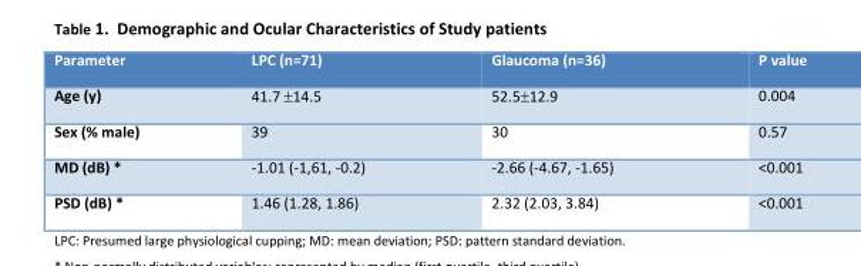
<table><thead><tr><td>Parameter</td><td>LPC (n=71)</td><td>Glaucoma (n=36)</td><td>P value</td></tr></thead><tbody><tr><td>Age (y)</td><td>41.7 14.5</td><td>52.512.9</td><td>0.004</td></tr><tr><td>Sex (% male)</td><td>39</td><td>30</td><td>0.57</td></tr><tr><td>MD (dB) *</td><td>-1.01 (-1,61, -0.2)</td><td>-2.66 (-4.67, -1.65)</td><td>&lt;0.001</td></tr><tr><td>PSD (dB) *</td><td>1.46 (1.28, 1.86)</td><td>2.32 (2.03, 3.84)</td><td>&lt;0.001</td></tr></tbody></table>